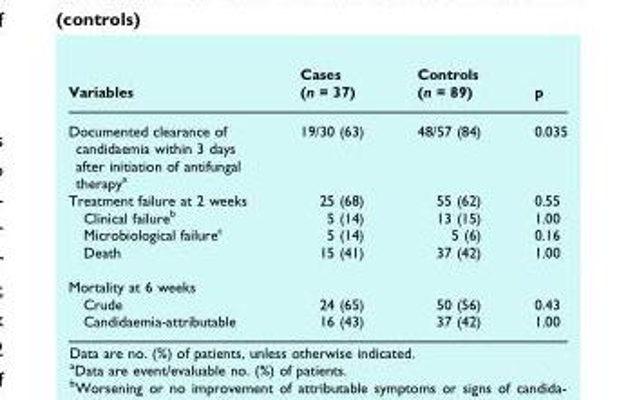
<table><thead><tr><td>Variables</td><td>Cases (n = 37)</td><td>Controls (n = 89)</td><td>p</td></tr></thead><tbody><tr><td>Documented clearance of candidaemia within 3 days after initiation of antifungal therapy<sup>a</sup></td><td>19/30 (63)</td><td>48/57 (84)</td><td>0.035</td></tr><tr><td>Treatment failure at 2 weeks</td><td>25 (68)</td><td>55 (62)</td><td>0.55</td></tr><tr><td>Clinical failure<sup>b</sup></td><td>5 (14)</td><td>13 (15)</td><td>1.00</td></tr><tr><td>Microbiological failure<sup>c</sup></td><td>5 (14)</td><td>5 (6)</td><td>0.16</td></tr><tr><td>Death</td><td>15 (41)</td><td>37 (42)</td><td>1.00</td></tr><tr><td colspan="4">Mortality at 6 weeks</td></tr><tr><td>Crude</td><td>24 (65)</td><td>50 (56)</td><td>0.43</td></tr><tr><td>Candidaemia-attributable</td><td>16 (43)</td><td>37 (42)</td><td>1.00</td></tr></tbody></table>